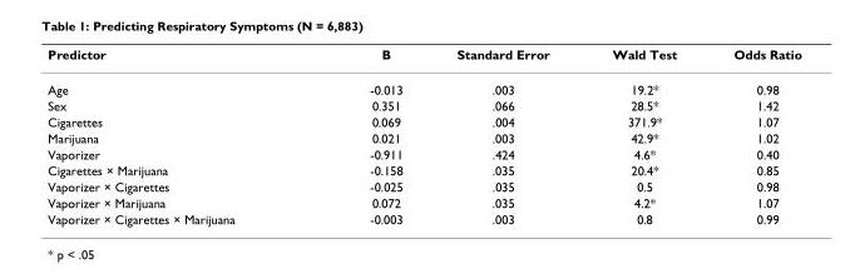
<table><thead><tr><td>Predictor</td><td>B</td><td>Standard Error</td><td>Wald Test</td><td>Odds Ratio</td></tr></thead><tbody><tr><td>Age</td><td>-0.013</td><td>.003</td><td>19.2*</td><td>0.98</td></tr><tr><td>Sex</td><td>0.351</td><td>.066</td><td>28.5*</td><td>1.42</td></tr><tr><td>Cigarettes</td><td>0.069</td><td>.004</td><td>371.9*</td><td>1.07</td></tr><tr><td>Marijuana</td><td>0.021</td><td>.003</td><td>42.9*</td><td>1.02</td></tr><tr><td>Vaporizer</td><td>-0.911</td><td>.424</td><td>4.6*</td><td>0.40</td></tr><tr><td>Cigarettes × Marijuana</td><td>-0.158</td><td>.035</td><td>20.4*</td><td>0.85</td></tr><tr><td>Vaporizer × Cigarettes</td><td>-0.025</td><td>.035</td><td>0.5</td><td>0.98</td></tr><tr><td>Vaporizer × Marijuana</td><td>0.072</td><td>.035</td><td>4.2*</td><td>1.07</td></tr><tr><td>Vaporizer × Cigarettes × Marijuana</td><td>-0.003</td><td>.003</td><td>0.8</td><td>0.99</td></tr></tbody></table>